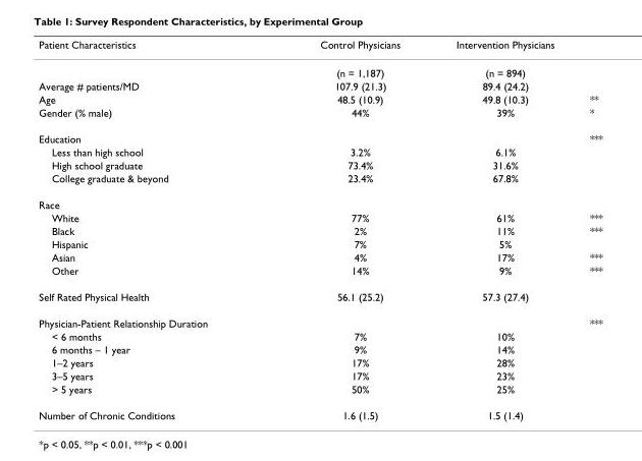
<table><thead><tr><td>Patient Characteristics</td><td>Control Physicians</td><td>Intervention Physicians</td><td></td></tr></thead><tbody><tr><td></td><td>(n = 1,187)</td><td>(n = 894)</td><td></td></tr><tr><td>Average # patients/MD</td><td>107.9 (21.3)</td><td>89.4 (24.2)</td><td></td></tr><tr><td>Age</td><td>48.5 (10.9)</td><td>49.8 (10.3)</td><td>**</td></tr><tr><td>Gender (% male)</td><td>44%</td><td>39%</td><td>*</td></tr><tr><td>Education</td><td></td><td></td><td>***</td></tr><tr><td>Less than high school</td><td>3.2%</td><td>6.1%</td><td></td></tr><tr><td>High school graduate</td><td>73.4%</td><td>31.6%</td><td></td></tr><tr><td>College graduate &amp; beyond</td><td>23.4%</td><td>67.8%</td><td></td></tr><tr><td colspan="4">Race</td></tr><tr><td>White</td><td>77%</td><td>61%</td><td>***</td></tr><tr><td>Black</td><td>2%</td><td>11%</td><td>***</td></tr><tr><td>Hispanic</td><td>7%</td><td>5%</td><td></td></tr><tr><td>Asian</td><td>4%</td><td>17%</td><td>***</td></tr><tr><td>Other</td><td>14%</td><td>9%</td><td>***</td></tr><tr><td>Self Rated Physical Health</td><td>56.1 (25.2)</td><td>57.3 (27.4)</td><td></td></tr><tr><td>Physician-Patient Relationship Duration</td><td></td><td></td><td>***</td></tr><tr><td>&lt; 6 months</td><td>7%</td><td>10%</td><td></td></tr><tr><td>6 months – 1 year</td><td>9%</td><td>14%</td><td></td></tr><tr><td>1–2 years</td><td>17%</td><td>28%</td><td></td></tr><tr><td>3–5 years</td><td>17%</td><td>23%</td><td></td></tr><tr><td>&gt; 5 years</td><td>50%</td><td>25%</td><td></td></tr><tr><td>Number of Chronic Conditions</td><td>1.6 (1.5)</td><td>1.5 (1.4)</td><td></td></tr></tbody></table>